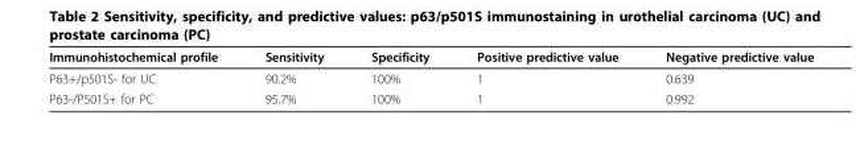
<table><thead><tr><td>Immunohistochemical profile</td><td>Sensitivity</td><td>Specificity</td><td>Positive predictive value</td><td>Negative predictive value</td></tr></thead><tbody><tr><td>P63+/p501S- for UC</td><td>90.2%</td><td>100%</td><td>1</td><td>0.639</td></tr><tr><td>P63-/P501S+ for PC</td><td>95.7%</td><td>100%</td><td>1</td><td>0.992</td></tr></tbody></table>